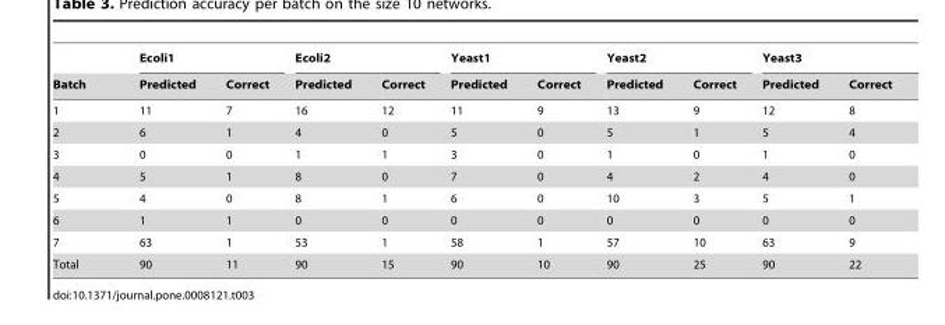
<table><thead><tr><td rowspan="2">Batch</td><td colspan="2">Ecoli1</td><td colspan="2">Ecoli2</td><td colspan="2">Yeast1</td><td colspan="2">Yeast2</td><td colspan="2">Yeast3</td></tr><tr><td>Predicted</td><td>Correct</td><td>Predicted</td><td>Correct</td><td>Predicted</td><td>Correct</td><td>Predicted</td><td>Correct</td><td>Predicted</td><td>Correct</td></tr></thead><tbody><tr><td>1</td><td>11</td><td>7</td><td>16</td><td>12</td><td>11</td><td>9</td><td>13</td><td>9</td><td>12</td><td>8</td></tr><tr><td>2</td><td>6</td><td>1</td><td>4</td><td>0</td><td>5</td><td>0</td><td>5</td><td>1</td><td>5</td><td>4</td></tr><tr><td>3</td><td>0</td><td>0</td><td>1</td><td>1</td><td>3</td><td>0</td><td>1</td><td>0</td><td>1</td><td>0</td></tr><tr><td>4</td><td>5</td><td>1</td><td>8</td><td>0</td><td>7</td><td>0</td><td>4</td><td>2</td><td>4</td><td>0</td></tr><tr><td>5</td><td>4</td><td>0</td><td>8</td><td>1</td><td>6</td><td>0</td><td>10</td><td>3</td><td>5</td><td>1</td></tr><tr><td>6</td><td>1</td><td>1</td><td>0</td><td>0</td><td>0</td><td>0</td><td>0</td><td>0</td><td>0</td><td>0</td></tr><tr><td>7</td><td>63</td><td>1</td><td>53</td><td>1</td><td>58</td><td>1</td><td>57</td><td>10</td><td>63</td><td>9</td></tr><tr><td>Total</td><td>90</td><td>11</td><td>90</td><td>15</td><td>90</td><td>10</td><td>90</td><td>25</td><td>90</td><td>22</td></tr></tbody></table>